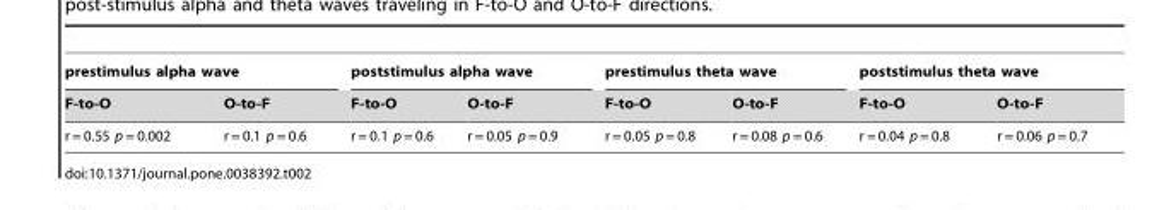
<table><thead><tr><td colspan="2">prestimulus alpha wave</td><td colspan="2">poststimulus alpha wave</td><td colspan="2">prestimulus theta wave</td><td colspan="2">poststimulus theta wave</td></tr><tr><td>F-to-O</td><td>O-to-F</td><td>F-to-O</td><td>O-to-F</td><td>F-to-O</td><td>O-to-F</td><td>F-to-O</td><td>O-to-F</td></tr></thead><tbody><tr><td>r = 0.55 p = 0.002</td><td>r = 0.1 p = 0.6</td><td>r = 0.1 p = 0.6</td><td>r = 0.05 p = 0.9</td><td>r = 0.05 p = 0.8</td><td>r = 0.08 p = 0.6</td><td>r = 0.04 p = 0.8</td><td>r = 0.06 p = 0.7</td></tr></tbody></table>